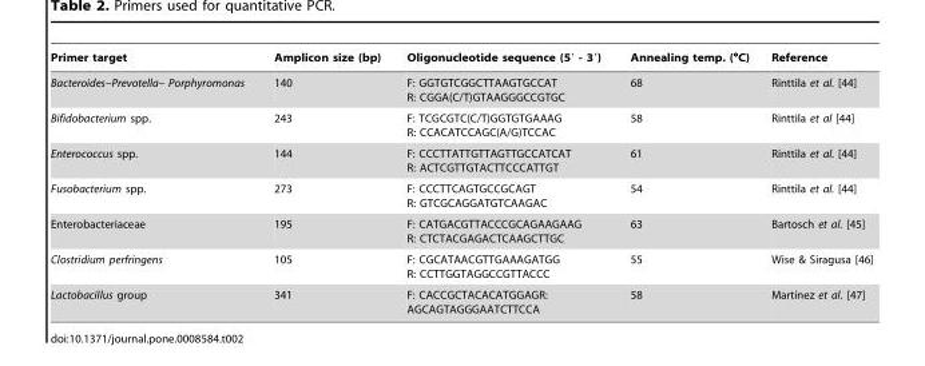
<table><thead><tr><td>Primer target</td><td>Amplicon size (bp)</td><td>Oligonucleotide sequence (5′ - 3′)</td><td>Annealing temp. (°C)</td><td>Reference</td></tr></thead><tbody><tr><td>Bacteroides–Prevotella– Porphyromonas</td><td>140</td><td>F: GGTGTCGGCTTAAGTGCCAT R: CGGA(C/T)GTAAGGGCCGTGC</td><td>68</td><td>Rinttila et al. [44]</td></tr><tr><td>Bifidobacterium spp.</td><td>243</td><td>F: TCGCGTC(C/T)GGTGTGAAAG R: CCACATCCAGC(A/G)TCCAC</td><td>58</td><td>Rinttila et al [44]</td></tr><tr><td>Enterococcus spp.</td><td>144</td><td>F: CCCTTATTGTTAGTTGCCATCAT R: ACTCGTTGTACTTCCCATTGT</td><td>61</td><td>Rinttila et al. [44]</td></tr><tr><td>Fusobacterium spp.</td><td>273</td><td>F: CCCTTCAGTGCCGCAGT R: GTCGCAGGATGTCAAGAC</td><td>54</td><td>Rinttila et al. [44]</td></tr><tr><td>Enterobacteriaceae</td><td>195</td><td>F: CATGACGTTACCCGCAGAAGAAG R: CTCTACGAGACTCAAGCTTGC</td><td>63</td><td>Bartosch et al. [45]</td></tr><tr><td>Clostridium perfringens</td><td>105</td><td>F: CGCATAACGTTGAAAGATGG R: CCTTGGTAGGCCGTTACCC</td><td>55</td><td>Wise &amp; Siragusa [46]</td></tr><tr><td>Lactobacillus group</td><td>341</td><td>F: CACCGCTACACATGGAGR: AGCAGTAGGGAATCTTCCA</td><td>58</td><td>Martı´nez et al. [47]</td></tr></tbody></table>